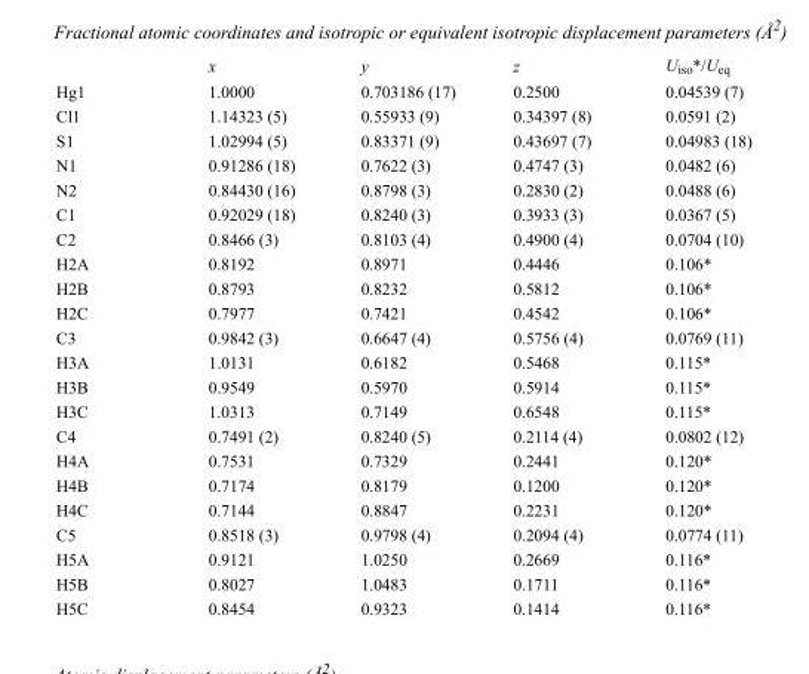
<table><thead><tr><td></td><td>x</td><td>y</td><td>z</td><td>U<sub>iso</sub>*/U<sub>eq</sub></td></tr></thead><tbody><tr><td>Hg1</td><td>1.0000</td><td>0.703186 (17)</td><td>0.2500</td><td>0.04539 (7)</td></tr><tr><td>Cl1</td><td>1.14323 (5)</td><td>0.55933 (9)</td><td>0.34397 (8)</td><td>0.0591 (2)</td></tr><tr><td>S1</td><td>1.02994 (5)</td><td>0.83371 (9)</td><td>0.43697 (7)</td><td>0.04983 (18)</td></tr><tr><td>N1</td><td>0.91286 (18)</td><td>0.7622 (3)</td><td>0.4747 (3)</td><td>0.0482 (6)</td></tr><tr><td>N2</td><td>0.84430 (16)</td><td>0.8798 (3)</td><td>0.2830 (2)</td><td>0.0488 (6)</td></tr><tr><td>C1</td><td>0.92029 (18)</td><td>0.8240 (3)</td><td>0.3933 (3)</td><td>0.0367 (5)</td></tr><tr><td>C2</td><td>0.8466 (3)</td><td>0.8103 (4)</td><td>0.4900 (4)</td><td>0.0704 (10)</td></tr><tr><td>H2A</td><td>0.8192</td><td>0.8971</td><td>0.4446</td><td>0.106*</td></tr><tr><td>H2B</td><td>0.8793</td><td>0.8232</td><td>0.5812</td><td>0.106*</td></tr><tr><td>H2C</td><td>0.7977</td><td>0.7421</td><td>0.4542</td><td>0.106*</td></tr><tr><td>C3</td><td>0.9842 (3)</td><td>0.6647 (4)</td><td>0.5756 (4)</td><td>0.0769 (11)</td></tr><tr><td>H3A</td><td>1.0131</td><td>0.6182</td><td>0.5468</td><td>0.115*</td></tr><tr><td>H3B</td><td>0.9549</td><td>0.5970</td><td>0.5914</td><td>0.115*</td></tr><tr><td>H3C</td><td>1.0313</td><td>0.7149</td><td>0.6548</td><td>0.115*</td></tr><tr><td>C4</td><td>0.7491 (2)</td><td>0.8240 (5)</td><td>0.2114 (4)</td><td>0.0802 (12)</td></tr><tr><td>H4A</td><td>0.7531</td><td>0.7329</td><td>0.2441</td><td>0.120*</td></tr><tr><td>H4B</td><td>0.7174</td><td>0.8179</td><td>0.1200</td><td>0.120*</td></tr><tr><td>H4C</td><td>0.7144</td><td>0.8847</td><td>0.2231</td><td>0.120*</td></tr><tr><td>C5</td><td>0.8518 (3)</td><td>0.9798 (4)</td><td>0.2094 (4)</td><td>0.0774 (11)</td></tr><tr><td>H5A</td><td>0.9121</td><td>1.0250</td><td>0.2669</td><td>0.116*</td></tr><tr><td>H5B</td><td>0.8027</td><td>1.0483</td><td>0.1711</td><td>0.116*</td></tr><tr><td>H5C</td><td>0.8454</td><td>0.9323</td><td>0.1414</td><td>0.116*</td></tr></tbody></table>